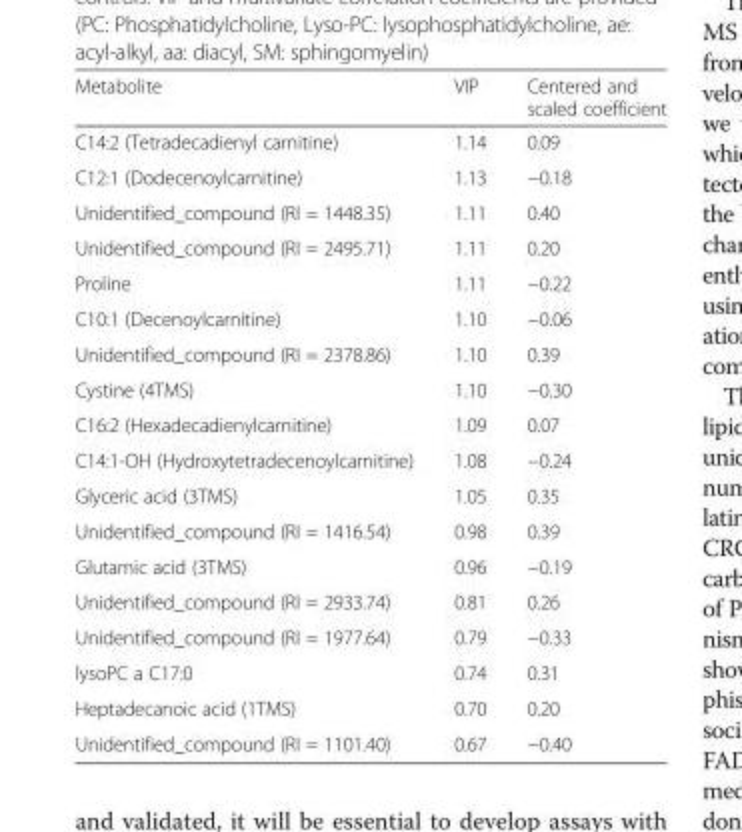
<table><thead><tr><td>Metabolite</td><td>VIP</td><td>Centered and scaled coefficient</td></tr></thead><tbody><tr><td>C14:2 (Tetradecadienyl carnitine)</td><td>1.14</td><td>0.09</td></tr><tr><td>C12:1 (Dodecenoylcarnitine)</td><td>1.13</td><td>−0.18</td></tr><tr><td>Unidentified_compound (RI = 1448.35)</td><td>1.11</td><td>0.40</td></tr><tr><td>Unidentified_compound (RI = 2495.71)</td><td>1.11</td><td>0.20</td></tr><tr><td>Proline</td><td>1.11</td><td>−0.22</td></tr><tr><td>C10:1 (Decenoylcarnitine)</td><td>1.10</td><td>−0.06</td></tr><tr><td>Unidentified_compound (RI = 2378.86)</td><td>1.10</td><td>0.39</td></tr><tr><td>Cystine (4TMS)</td><td>1.10</td><td>−0.30</td></tr><tr><td>C16:2 (Hexadecadienylcarnitine)</td><td>1.09</td><td>0.07</td></tr><tr><td>C14:1-OH (Hydroxytetradecenoylcarnitine)</td><td>1.08</td><td>−0.24</td></tr><tr><td>Glyceric acid (3TMS)</td><td>1.05</td><td>0.35</td></tr><tr><td>Unidentified_compound (RI = 1416.54)</td><td>0.98</td><td>0.39</td></tr><tr><td>Glutamic acid (3TMS)</td><td>0.96</td><td>−0.19</td></tr><tr><td>Unidentified_compound (RI = 2933.74)</td><td>0.81</td><td>0.26</td></tr><tr><td>Unidentified_compound (RI = 1977.64)</td><td>0.79</td><td>−0.33</td></tr><tr><td>lysoPC a C17:0</td><td>0.74</td><td>0.31</td></tr><tr><td>Heptadecanoic acid (1TMS)</td><td>0.70</td><td>0.20</td></tr><tr><td>Unidentified_compound (RI = 1101.40)</td><td>0.67</td><td>−0.40</td></tr></tbody></table>